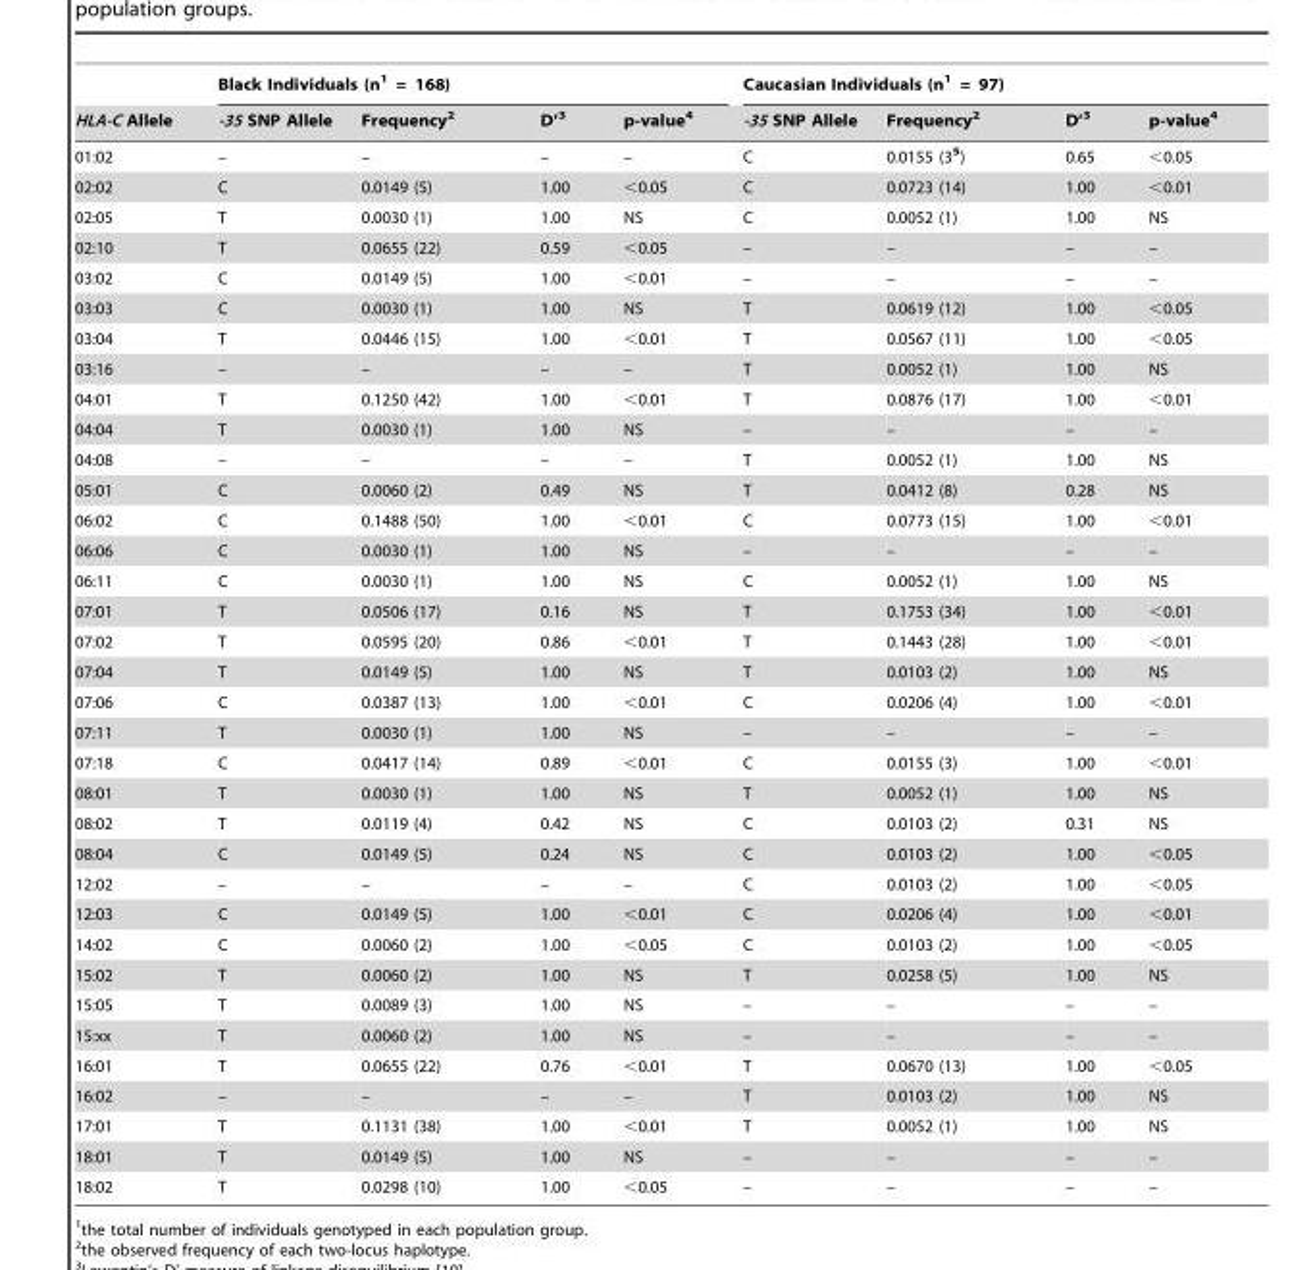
<table><thead><tr><td rowspan="2">HLA-C Allele</td><td colspan="4">Black Individuals (n<sup>1</sup> = 168)</td><td colspan="4">Caucasian Individuals (n<sup>1</sup> = 97)</td></tr><tr><td>-35 SNP Allele</td><td>Frequency<sup>2</sup></td><td>D’<sup>3</sup></td><td>p-value<sup>4</sup></td><td>-35 SNP Allele</td><td>Frequency<sup>2</sup></td><td>D’<sup>3</sup></td><td>p-value<sup>4</sup></td></tr></thead><tbody><tr><td>01:02</td><td>–</td><td>–</td><td>–</td><td>–</td><td>C</td><td>0.0155 (3<sup>5</sup>)</td><td>0.65</td><td>&lt;0.05</td></tr><tr><td>02:02</td><td>C</td><td>0.0149 (5)</td><td>1.00</td><td>&lt;0.05</td><td>C</td><td>0.0723 (14)</td><td>1.00</td><td>&lt;0.01</td></tr><tr><td>02:05</td><td>T</td><td>0.0030 (1)</td><td>1.00</td><td>NS</td><td>C</td><td>0.0052 (1)</td><td>1.00</td><td>NS</td></tr><tr><td>02:10</td><td>T</td><td>0.0655 (22)</td><td>0.59</td><td>&lt;0.05</td><td>–</td><td>–</td><td>–</td><td>–</td></tr><tr><td>03:02</td><td>C</td><td>0.0149 (5)</td><td>1.00</td><td>&lt;0.01</td><td>–</td><td>–</td><td>–</td><td>–</td></tr><tr><td>03:03</td><td>C</td><td>0.0030 (1)</td><td>1.00</td><td>NS</td><td>T</td><td>0.0619 (12)</td><td>1.00</td><td>&lt;0.05</td></tr><tr><td>03:04</td><td>T</td><td>0.0446 (15)</td><td>1.00</td><td>&lt;0.01</td><td>T</td><td>0.0567 (11)</td><td>1.00</td><td>&lt;0.05</td></tr><tr><td>03:16</td><td>–</td><td>–</td><td>–</td><td>–</td><td>T</td><td>0.0052 (1)</td><td>1.00</td><td>NS</td></tr><tr><td>04:01</td><td>T</td><td>0.1250 (42)</td><td>1.00</td><td>&lt;0.01</td><td>T</td><td>0.0876 (17)</td><td>1.00</td><td>&lt;0.01</td></tr><tr><td>04:04</td><td>T</td><td>0.0030 (1)</td><td>1.00</td><td>NS</td><td>–</td><td>–</td><td>–</td><td>–</td></tr><tr><td>04:08</td><td>–</td><td>–</td><td>–</td><td>–</td><td>T</td><td>0.0052 (1)</td><td>1.00</td><td>NS</td></tr><tr><td>05:01</td><td>C</td><td>0.0060 (2)</td><td>0.49</td><td>NS</td><td>T</td><td>0.0412 (8)</td><td>0.28</td><td>NS</td></tr><tr><td>06:02</td><td>C</td><td>0.1488 (50)</td><td>1.00</td><td>&lt;0.01</td><td>C</td><td>0.0773 (15)</td><td>1.00</td><td>&lt;0.01</td></tr><tr><td>06:06</td><td>C</td><td>0.0030 (1)</td><td>1.00</td><td>NS</td><td>–</td><td>–</td><td>–</td><td>–</td></tr><tr><td>06:11</td><td>C</td><td>0.0030 (1)</td><td>1.00</td><td>NS</td><td>C</td><td>0.0052 (1)</td><td>1.00</td><td>NS</td></tr><tr><td>07:01</td><td>T</td><td>0.0506 (17)</td><td>0.16</td><td>NS</td><td>T</td><td>0.1753 (34)</td><td>1.00</td><td>&lt;0.01</td></tr><tr><td>07:02</td><td>T</td><td>0.0595 (20)</td><td>0.86</td><td>&lt;0.01</td><td>T</td><td>0.1443 (28)</td><td>1.00</td><td>&lt;0.01</td></tr><tr><td>07:04</td><td>T</td><td>0.0149 (5)</td><td>1.00</td><td>NS</td><td>T</td><td>0.0103 (2)</td><td>1.00</td><td>NS</td></tr><tr><td>07:06</td><td>C</td><td>0.0387 (13)</td><td>1.00</td><td>&lt;0.01</td><td>C</td><td>0.0206 (4)</td><td>1.00</td><td>&lt;0.01</td></tr><tr><td>07:11</td><td>T</td><td>0.0030 (1)</td><td>1.00</td><td>NS</td><td>–</td><td>–</td><td>–</td><td>–</td></tr><tr><td>07:18</td><td>C</td><td>0.0417 (14)</td><td>0.89</td><td>&lt;0.01</td><td>C</td><td>0.0155 (3)</td><td>1.00</td><td>&lt;0.01</td></tr><tr><td>08:01</td><td>T</td><td>0.0030 (1)</td><td>1.00</td><td>NS</td><td>T</td><td>0.0052 (1)</td><td>1.00</td><td>NS</td></tr><tr><td>08:02</td><td>T</td><td>0.0119 (4)</td><td>0.42</td><td>NS</td><td>C</td><td>0.0103 (2)</td><td>0.31</td><td>NS</td></tr><tr><td>08:04</td><td>C</td><td>0.0149 (5)</td><td>0.24</td><td>NS</td><td>C</td><td>0.0103 (2)</td><td>1.00</td><td>&lt;0.05</td></tr><tr><td>12:02</td><td>–</td><td>–</td><td>–</td><td>–</td><td>C</td><td>0.0103 (2)</td><td>1.00</td><td>&lt;0.05</td></tr><tr><td>12:03</td><td>C</td><td>0.0149 (5)</td><td>1.00</td><td>&lt;0.01</td><td>C</td><td>0.0206 (4)</td><td>1.00</td><td>&lt;0.01</td></tr><tr><td>14:02</td><td>C</td><td>0.0060 (2)</td><td>1.00</td><td>&lt;0.05</td><td>C</td><td>0.0103 (2)</td><td>1.00</td><td>&lt;0.05</td></tr><tr><td>15:02</td><td>T</td><td>0.0060 (2)</td><td>1.00</td><td>NS</td><td>T</td><td>0.0258 (5)</td><td>1.00</td><td>NS</td></tr><tr><td>15:05</td><td>T</td><td>0.0089 (3)</td><td>1.00</td><td>NS</td><td>–</td><td>–</td><td>–</td><td>–</td></tr><tr><td>15:xx</td><td>T</td><td>0.0060 (2)</td><td>1.00</td><td>NS</td><td>–</td><td>–</td><td>–</td><td>–</td></tr><tr><td>16:01</td><td>T</td><td>0.0655 (22)</td><td>0.76</td><td>&lt;0.01</td><td>T</td><td>0.0670 (13)</td><td>1.00</td><td>&lt;0.05</td></tr><tr><td>16:02</td><td>–</td><td>–</td><td>–</td><td>–</td><td>T</td><td>0.0103 (2)</td><td>1.00</td><td>NS</td></tr><tr><td>17:01</td><td>T</td><td>0.1131 (38)</td><td>1.00</td><td>&lt;0.01</td><td>T</td><td>0.0052 (1)</td><td>1.00</td><td>NS</td></tr><tr><td>18:01</td><td>T</td><td>0.0149 (5)</td><td>1.00</td><td>NS</td><td>–</td><td>–</td><td>–</td><td>–</td></tr><tr><td>18:02</td><td>T</td><td>0.0298 (10)</td><td>1.00</td><td>&lt;0.05</td><td>–</td><td>–</td><td>–</td><td>–</td></tr></tbody></table>